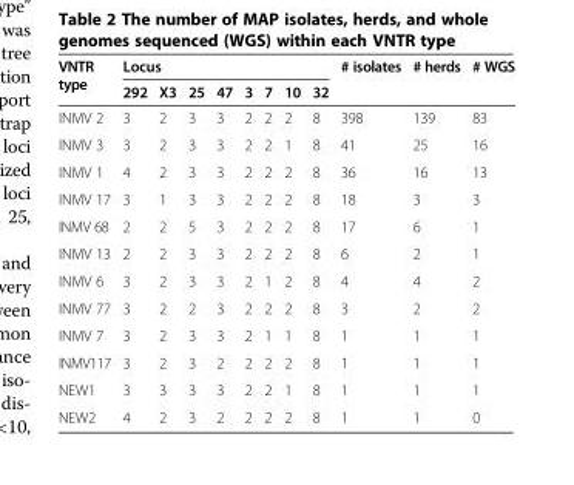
<table><thead><tr><td rowspan="2">VNTR type</td><td colspan="8">Locus</td><td rowspan="2"># isolates</td><td rowspan="2"># herds</td><td rowspan="2"># WGS</td></tr><tr><td>292</td><td>X3</td><td>25</td><td>47</td><td>3</td><td>7</td><td>10</td><td>32</td></tr></thead><tbody><tr><td>INMV 2</td><td>3</td><td>2</td><td>3</td><td>3</td><td>2</td><td>2</td><td>2</td><td>8</td><td>398</td><td>139</td><td>83</td></tr><tr><td>INMV 3</td><td>3</td><td>2</td><td>3</td><td>3</td><td>2</td><td>2</td><td>1</td><td>8</td><td>41</td><td>25</td><td>16</td></tr><tr><td>INMV 1</td><td>4</td><td>2</td><td>3</td><td>3</td><td>2</td><td>2</td><td>2</td><td>8</td><td>36</td><td>16</td><td>13</td></tr><tr><td>INMV 17</td><td>3</td><td>1</td><td>3</td><td>3</td><td>2</td><td>2</td><td>2</td><td>8</td><td>18</td><td>3</td><td>3</td></tr><tr><td>INMV 68</td><td>2</td><td>2</td><td>5</td><td>3</td><td>2</td><td>2</td><td>2</td><td>8</td><td>17</td><td>6</td><td>1</td></tr><tr><td>INMV 13</td><td>2</td><td>2</td><td>3</td><td>3</td><td>2</td><td>2</td><td>2</td><td>8</td><td>6</td><td>2</td><td>1</td></tr><tr><td>INMV 6</td><td>3</td><td>2</td><td>3</td><td>3</td><td>2</td><td>1</td><td>2</td><td>8</td><td>4</td><td>4</td><td>2</td></tr><tr><td>INMV 77</td><td>3</td><td>2</td><td>2</td><td>3</td><td>2</td><td>2</td><td>2</td><td>8</td><td>3</td><td>2</td><td>2</td></tr><tr><td>INMV 7</td><td>3</td><td>2</td><td>3</td><td>3</td><td>2</td><td>1</td><td>1</td><td>8</td><td>1</td><td>1</td><td>1</td></tr><tr><td>INMV117</td><td>3</td><td>2</td><td>3</td><td>2</td><td>2</td><td>2</td><td>2</td><td>8</td><td>1</td><td>1</td><td>1</td></tr><tr><td>NEW1</td><td>3</td><td>3</td><td>3</td><td>3</td><td>2</td><td>2</td><td>1</td><td>8</td><td>1</td><td>1</td><td>1</td></tr><tr><td>NEW2</td><td>4</td><td>2</td><td>3</td><td>2</td><td>2</td><td>2</td><td>2</td><td>8</td><td>1</td><td>1</td><td>0</td></tr></tbody></table>